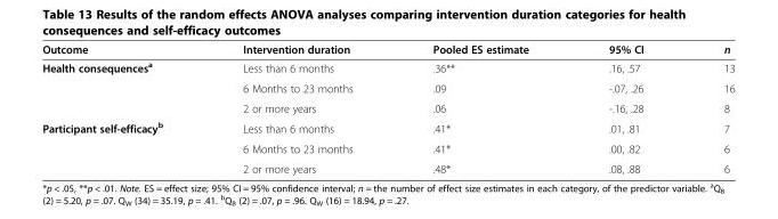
<table><thead><tr><td>Outcome</td><td>Intervention duration</td><td>Pooled ES estimate</td><td>95% CI</td><td>n</td></tr></thead><tbody><tr><td rowspan="3">Health consequences<sup>a</sup></td><td>Less than 6 months</td><td>.36**</td><td>.16, .57</td><td>13</td></tr><tr><td>6 Months to 23 months</td><td>.09</td><td>-.07, .26</td><td>16</td></tr><tr><td>2 or more years</td><td>.06</td><td>-.16, .28</td><td>8</td></tr><tr><td rowspan="3">Participant self-efficacy<sup>b</sup></td><td>Less than 6 months</td><td>.41*</td><td>.01, .81</td><td>7</td></tr><tr><td>6 Months to 23 months</td><td>.41*</td><td>.00, .82</td><td>6</td></tr><tr><td>2 or more years</td><td>.48*</td><td>.08, .88</td><td>6</td></tr></tbody></table>